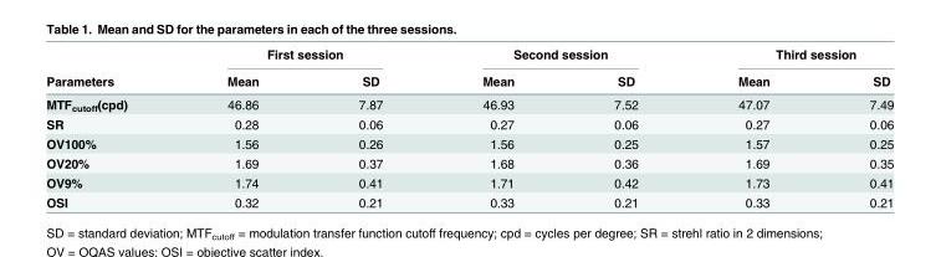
<table><thead><tr><td rowspan="2">Parameters</td><td colspan="2">First session</td><td colspan="2">Second session</td><td colspan="2">Third session</td></tr><tr><td>Mean</td><td>SD</td><td>Mean</td><td>SD</td><td>Mean</td><td>SD</td></tr></thead><tbody><tr><td>MTF<sub>cutoff</sub>(cpd)</td><td>46.86</td><td>7.87</td><td>46.93</td><td>7.52</td><td>47.07</td><td>7.49</td></tr><tr><td>SR</td><td>0.28</td><td>0.06</td><td>0.27</td><td>0.06</td><td>0.27</td><td>0.06</td></tr><tr><td>OV100%</td><td>1.56</td><td>0.26</td><td>1.56</td><td>0.25</td><td>1.57</td><td>0.25</td></tr><tr><td>OV20%</td><td>1.69</td><td>0.37</td><td>1.68</td><td>0.36</td><td>1.69</td><td>0.35</td></tr><tr><td>OV9%</td><td>1.74</td><td>0.41</td><td>1.71</td><td>0.42</td><td>1.73</td><td>0.41</td></tr><tr><td>OSI</td><td>0.32</td><td>0.21</td><td>0.33</td><td>0.21</td><td>0.33</td><td>0.21</td></tr></tbody></table>